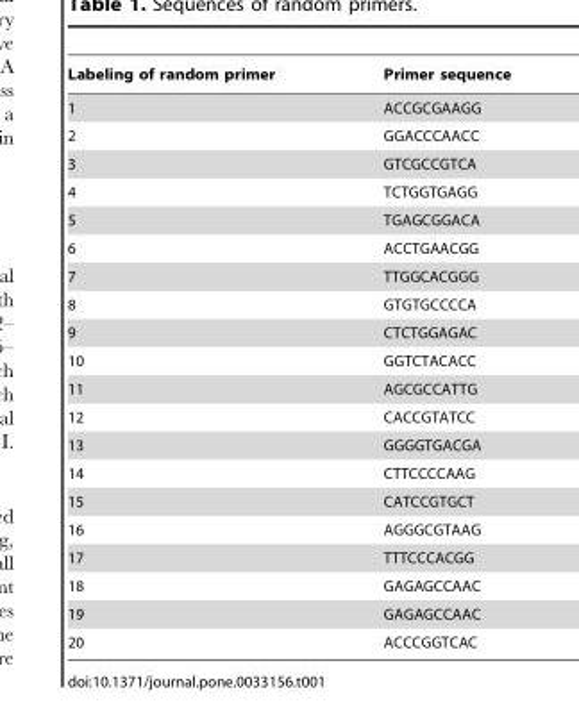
<table><thead><tr><td>Labeling of random primer</td><td>Primer sequence</td></tr></thead><tbody><tr><td>1</td><td>ACCGCGAAGG</td></tr><tr><td>2</td><td>GGACCCAACC</td></tr><tr><td>3</td><td>GTCGCCGTCA</td></tr><tr><td>4</td><td>TCTGGTGAGG</td></tr><tr><td>5</td><td>TGAGCGGACA</td></tr><tr><td>6</td><td>ACCTGAACGG</td></tr><tr><td>7</td><td>TTGGCACGGG</td></tr><tr><td>8</td><td>GTGTGCCCCA</td></tr><tr><td>9</td><td>CTCTGGAGAC</td></tr><tr><td>10</td><td>GGTCTACACC</td></tr><tr><td>11</td><td>AGCGCCATTG</td></tr><tr><td>12</td><td>CACCGTATCC</td></tr><tr><td>13</td><td>GGGGTGACGA</td></tr><tr><td>14</td><td>CTTCCCCAAG</td></tr><tr><td>15</td><td>CATCCGTGCT</td></tr><tr><td>16</td><td>AGGGCGTAAG</td></tr><tr><td>17</td><td>TTTCCCACGG</td></tr><tr><td>18</td><td>GAGAGCCAAC</td></tr><tr><td>19</td><td>GAGAGCCAAC</td></tr><tr><td>20</td><td>ACCCGGTCAC</td></tr></tbody></table>